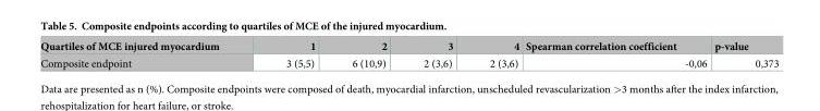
<table><thead><tr><td>Quartiles of MCE injured myocardium</td><td>1</td><td>2</td><td>3</td><td>4</td><td>Spearman correlation coefficient</td><td>p-value</td></tr></thead><tbody><tr><td>Composite endpoint</td><td>3 (5,5)</td><td>6 (10,9)</td><td>2 (3,6)</td><td>2 (3,6)</td><td>-0,06</td><td>0,373</td></tr></tbody></table>